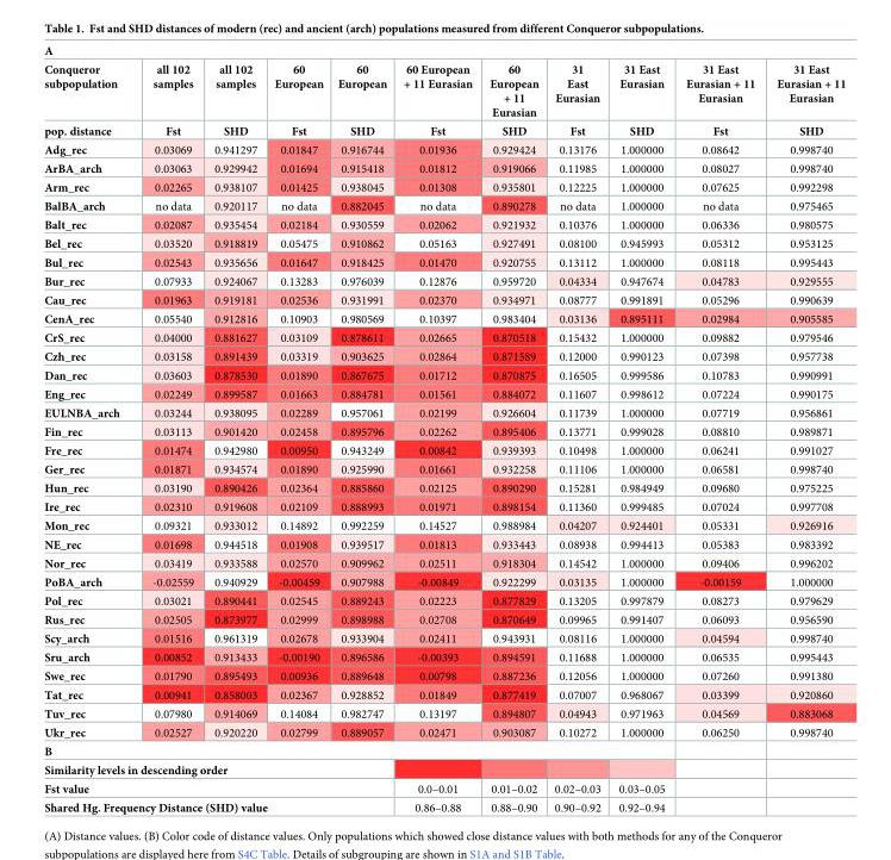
<table><tbody><tr><td colspan="11">A</td></tr><tr><td>Conqueror subpopulation</td><td>all 102 samples</td><td>all 102 samples</td><td>60 European</td><td>60 European</td><td>60 European + 11 Eurasian</td><td>60 European + 11 Eurasian</td><td>31 East Eurasian</td><td>31 East Eurasian</td><td>31 East Eurasian + 11 Eurasian</td><td>31 East Eurasian + 11 Eurasian</td></tr><tr><td>pop. distance</td><td>Fst</td><td>SHD</td><td>Fst</td><td>SHD</td><td>Fst</td><td>SHD</td><td>Fst</td><td>SHD</td><td>Fst</td><td>SHD</td></tr><tr><td>Adg_rec</td><td>0.03069</td><td>0.941297</td><td>0.01847</td><td>0.916744</td><td>0.01936</td><td>0.929424</td><td>0.13176</td><td>1.000000</td><td>0.08642</td><td>0.998740</td></tr><tr><td>ArBA_arch</td><td>0.03063</td><td>0.929942</td><td>0.01694</td><td>0.915418</td><td>0.01812</td><td>0.919066</td><td>0.11985</td><td>1.000000</td><td>0.08027</td><td>0.998740</td></tr><tr><td>Arm_rec</td><td>0.02265</td><td>0.938107</td><td>0.01425</td><td>0.938045</td><td>0.01308</td><td>0.935801</td><td>0.12225</td><td>1.000000</td><td>0.07625</td><td>0.992298</td></tr><tr><td>BalBA_arch</td><td>no data</td><td>0.920117</td><td>no data</td><td>0.882045</td><td>no data</td><td>0.890278</td><td>no data</td><td>1.000000</td><td>no data</td><td>0.975465</td></tr><tr><td>Balt_rec</td><td>0.02087</td><td>0.935454</td><td>0.02184</td><td>0.930559</td><td>0.02062</td><td>0.921932</td><td>0.10376</td><td>1.000000</td><td>0.06336</td><td>0.980575</td></tr><tr><td>Bel_rec</td><td>0.03520</td><td>0.918819</td><td>0.05475</td><td>0.910862</td><td>0.05163</td><td>0.927491</td><td>0.08100</td><td>0.945993</td><td>0.05312</td><td>0.953125</td></tr><tr><td>Bul_rec</td><td>0.02543</td><td>0.935656</td><td>0.01647</td><td>0.918425</td><td>0.01470</td><td>0.920755</td><td>0.13112</td><td>1.000000</td><td>0.08118</td><td>0.995443</td></tr><tr><td>Bur_rec</td><td>0.07933</td><td>0.924067</td><td>0.13283</td><td>0.976039</td><td>0.12876</td><td>0.959720</td><td>0.04334</td><td>0.947674</td><td>0.04783</td><td>0.929555</td></tr><tr><td>Cau_rec</td><td>0.01963</td><td>0.919181</td><td>0.02536</td><td>0.931991</td><td>0.02370</td><td>0.934971</td><td>0.08777</td><td>0.991891</td><td>0.05296</td><td>0.990639</td></tr><tr><td>CenA_rec</td><td>0.05540</td><td>0.912816</td><td>0.10903</td><td>0.980569</td><td>0.10397</td><td>0.983404</td><td>0.03136</td><td>0.895111</td><td>0.02984</td><td>0.905585</td></tr><tr><td>CrS_rec</td><td>0.04000</td><td>0.881627</td><td>0.03109</td><td>0.878611</td><td>0.02665</td><td>0.870518</td><td>0.15432</td><td>1.000000</td><td>0.09882</td><td>0.979546</td></tr><tr><td>Czh_rec</td><td>0.03158</td><td>0.891439</td><td>0.03319</td><td>0.903625</td><td>0.02864</td><td>0.871589</td><td>0.12000</td><td>0.990123</td><td>0.07398</td><td>0.957738</td></tr><tr><td>Dan_rec</td><td>0.03603</td><td>0.878530</td><td>0.01890</td><td>0.867675</td><td>0.01712</td><td>0.870875</td><td>0.16505</td><td>0.999586</td><td>0.10783</td><td>0.990991</td></tr><tr><td>Eng_rec</td><td>0.02249</td><td>0.899587</td><td>0.01663</td><td>0.884781</td><td>0.01561</td><td>0.884072</td><td>0.11607</td><td>0.998612</td><td>0.07224</td><td>0.990175</td></tr><tr><td>EULNBA_arch</td><td>0.03244</td><td>0.938095</td><td>0.02289</td><td>0.957061</td><td>0.02199</td><td>0.926604</td><td>0.11739</td><td>1.000000</td><td>0.07719</td><td>0.956861</td></tr><tr><td>Fin_rec</td><td>0.03113</td><td>0.901420</td><td>0.02458</td><td>0.895796</td><td>0.02262</td><td>0.895406</td><td>0.13771</td><td>0.999028</td><td>0.08810</td><td>0.989871</td></tr><tr><td>Fre_rec</td><td>0.01474</td><td>0.942980</td><td>0.00950</td><td>0.943249</td><td>0.00842</td><td>0.939393</td><td>0.10498</td><td>1.000000</td><td>0.06241</td><td>0.991027</td></tr><tr><td>Ger_rec</td><td>0.01871</td><td>0.934574</td><td>0.01890</td><td>0.925990</td><td>0.01661</td><td>0.932258</td><td>0.11106</td><td>1.000000</td><td>0.06581</td><td>0.998740</td></tr><tr><td>Hun_rec</td><td>0.03190</td><td>0.890426</td><td>0.02364</td><td>0.885860</td><td>0.02125</td><td>0.890290</td><td>0.15281</td><td>0.984949</td><td>0.09680</td><td>0.975225</td></tr><tr><td>Ire_rec</td><td>0.02310</td><td>0.919608</td><td>0.02109</td><td>0.888993</td><td>0.01971</td><td>0.898154</td><td>0.11360</td><td>0.999485</td><td>0.07024</td><td>0.997708</td></tr><tr><td>Mon_rec</td><td>0.09321</td><td>0.933012</td><td>0.14892</td><td>0.992259</td><td>0.14527</td><td>0.988984</td><td>0.04207</td><td>0.924401</td><td>0.05331</td><td>0.926916</td></tr><tr><td>NE_rec</td><td>0.01698</td><td>0.944518</td><td>0.01908</td><td>0.939517</td><td>0.01813</td><td>0.933443</td><td>0.08938</td><td>0.994413</td><td>0.05383</td><td>0.983392</td></tr><tr><td>Nor_rec</td><td>0.03419</td><td>0.933588</td><td>0.02570</td><td>0.909962</td><td>0.02511</td><td>0.918304</td><td>0.14542</td><td>1.000000</td><td>0.09406</td><td>0.996202</td></tr><tr><td>PoBA_arch</td><td>-0.02559</td><td>0.940929</td><td>-0.00459</td><td>0.907988</td><td>-0.00849</td><td>0.922299</td><td>0.03135</td><td>1.000000</td><td>-0.00159</td><td>1.000000</td></tr><tr><td>Pol_rec</td><td>0.03021</td><td>0.890441</td><td>0.02545</td><td>0.889243</td><td>0.02223</td><td>0.877829</td><td>0.13205</td><td>0.997879</td><td>0.08273</td><td>0.979629</td></tr><tr><td>Rus_rec</td><td>0.02505</td><td>0.873977</td><td>0.02999</td><td>0.898988</td><td>0.02708</td><td>0.870649</td><td>0.09965</td><td>0.991407</td><td>0.06093</td><td>0.956590</td></tr><tr><td>Scy_arch</td><td>0.01516</td><td>0.961319</td><td>0.02678</td><td>0.933904</td><td>0.02411</td><td>0.943931</td><td>0.08116</td><td>1.000000</td><td>0.04594</td><td>0.998740</td></tr><tr><td>Sru_arch</td><td>0.00852</td><td>0.913433</td><td>-0.00190</td><td>0.896586</td><td>-0.00393</td><td>0.894591</td><td>0.11688</td><td>1.000000</td><td>0.06535</td><td>0.995443</td></tr><tr><td>Swe_rec</td><td>0.01790</td><td>0.895493</td><td>0.00936</td><td>0.889648</td><td>0.00798</td><td>0.887236</td><td>0.12056</td><td>1.000000</td><td>0.07260</td><td>0.991380</td></tr><tr><td>Tat_rec</td><td>0.00941</td><td>0.858003</td><td>0.02367</td><td>0.928852</td><td>0.01849</td><td>0.877419</td><td>0.07007</td><td>0.968067</td><td>0.03399</td><td>0.920860</td></tr><tr><td>Tuv_rec</td><td>0.07980</td><td>0.914069</td><td>0.14084</td><td>0.982747</td><td>0.13197</td><td>0.894807</td><td>0.04943</td><td>0.971963</td><td>0.04569</td><td>0.883068</td></tr><tr><td>Ukr_rec</td><td>0.02527</td><td>0.920220</td><td>0.02799</td><td>0.889057</td><td>0.02471</td><td>0.903087</td><td>0.10272</td><td>1.000000</td><td>0.06250</td><td>0.998740</td></tr><tr><td colspan="11">B</td></tr><tr><td colspan="11">Similarity levels in descending order</td></tr><tr><td colspan="5">Fst value</td><td>0.0–0.01</td><td>0.01–0.02</td><td>0.02–0.03</td><td>0.03–0.05</td><td></td><td></td></tr><tr><td colspan="5">Shared Hg. Frequency Distance (SHD) value</td><td>0.86–0.88</td><td>0.88–0.90</td><td>0.90–0.92</td><td>0.92–0.94</td><td></td><td></td></tr></tbody></table>